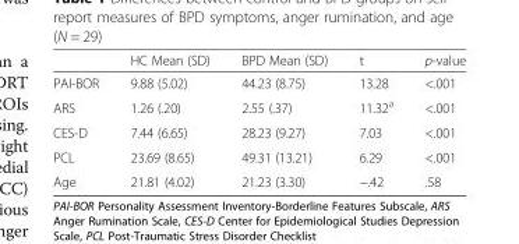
<table><thead><tr><td></td><td>HC Mean (SD)</td><td>BPD Mean (SD)</td><td>t</td><td>p-value</td></tr></thead><tbody><tr><td>PAI-BOR</td><td>9.88 (5.02)</td><td>44.23 (8.75)</td><td>13.28</td><td>&lt;.001</td></tr><tr><td>ARS</td><td>1.26 (.20)</td><td>2.55 (.37)</td><td>11.32<sup>a</sup></td><td>&lt;.001</td></tr><tr><td>CES-D</td><td>7.44 (6.65)</td><td>28.23 (9.27)</td><td>7.03</td><td>&lt;.001</td></tr><tr><td>PCL</td><td>23.69 (8.65)</td><td>49.31 (13.21)</td><td>6.29</td><td>&lt;.001</td></tr><tr><td>Age</td><td>21.81 (4.02)</td><td>21.23 (3.30)</td><td>−.42</td><td>.58</td></tr></tbody></table>